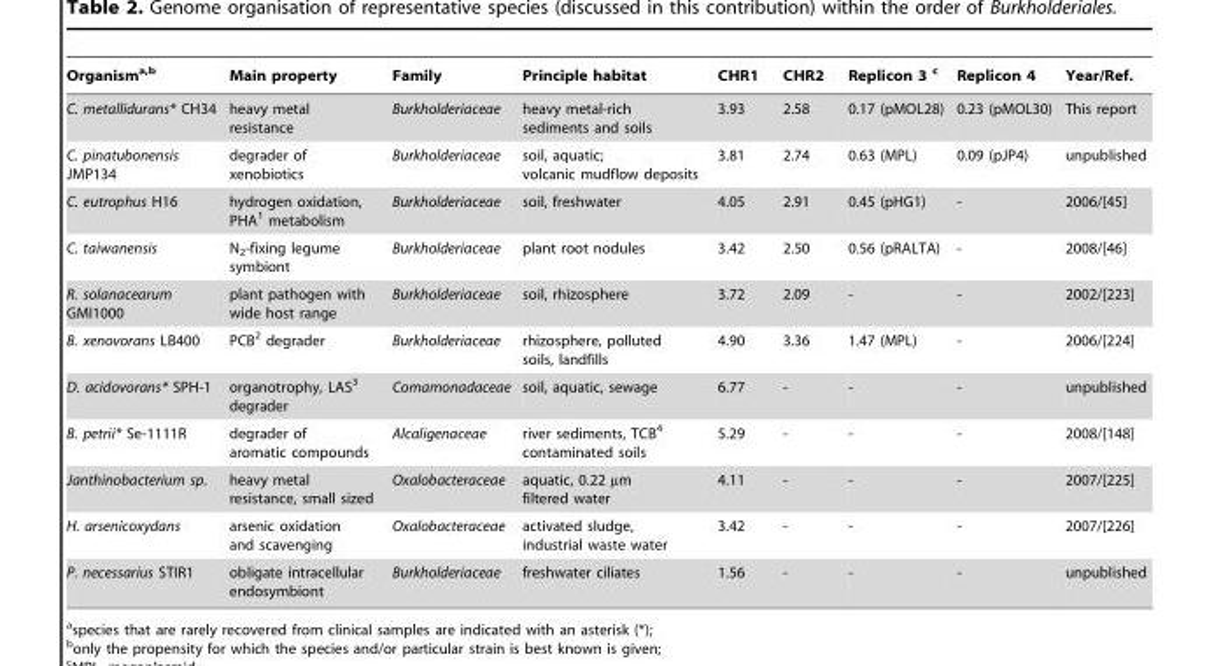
<table><thead><tr><td>Organisma,b</td><td>Main property</td><td>Family</td><td>Principle habitat</td><td>CHR1</td><td>CHR2</td><td>Replicon 3 c</td><td>Replicon 4</td><td>Year/Ref.</td></tr></thead><tbody><tr><td>C. metallidurans* CH34</td><td>heavy metal resistance</td><td>Burkholderiaceae</td><td>heavy metal-rich sediments and soils</td><td>3.93</td><td>2.58</td><td>0.17 (pMOL28)</td><td>0.23 (pMOL30)</td><td>This report</td></tr><tr><td>C. pinatubonensis JMP134</td><td>degrader of xenobiotics</td><td>Burkholderiaceae</td><td>soil, aquatic; volcanic mudflow deposits</td><td>3.81</td><td>2.74</td><td>0.63 (MPL)</td><td>0.09 (pJP4)</td><td>unpublished</td></tr><tr><td>C. eutrophus H16</td><td>hydrogen oxidation, PHA<sup>1</sup> metabolism</td><td>Burkholderiaceae</td><td>soil, freshwater</td><td>4.05</td><td>2.91</td><td>0.45 (pHG1)</td><td>-</td><td>2006/[45]</td></tr><tr><td>C. taiwanensis</td><td>N<sub>2</sub>-fixing legume symbiont</td><td>Burkholderiaceae</td><td>plant root nodules</td><td>3.42</td><td>2.50</td><td>0.56 (pRALTA)</td><td>-</td><td>2008/[46]</td></tr><tr><td>R. solanacearum GMI1000</td><td>plant pathogen with wide host range</td><td>Burkholderiaceae</td><td>soil, rhizosphere</td><td>3.72</td><td>2.09</td><td>-</td><td>-</td><td>2002/[223]</td></tr><tr><td>B. xenovorans LB400</td><td>PCB<sup>2</sup> degrader</td><td>Burkholderiaceae</td><td>rhizosphere, polluted soils, landfills</td><td>4.90</td><td>3.36</td><td>1.47 (MPL)</td><td>-</td><td>2006/[224]</td></tr><tr><td>D. acidovorans* SPH-1</td><td>organotrophy, LAS<sup>3</sup> degrader</td><td>Comamonadaceae</td><td>soil, aquatic, sewage</td><td>6.77</td><td>-</td><td>-</td><td>-</td><td>unpublished</td></tr><tr><td>B. petrii* Se-1111R</td><td>degrader of aromatic compounds</td><td>Alcaligenaceae</td><td>river sediments, TCB<sup>4</sup> contaminated soils</td><td>5.29</td><td>-</td><td>-</td><td>-</td><td>2008/[148]</td></tr><tr><td>Janthinobacterium sp.</td><td>heavy metal resistance, small sized</td><td>Oxalobacteraceae</td><td>aquatic, 0.22 µm filtered water</td><td>4.11</td><td>-</td><td>-</td><td>-</td><td>2007/[225]</td></tr><tr><td>H. arsenicoxydans</td><td>arsenic oxidation and scavenging</td><td>Oxalobacteraceae</td><td>activated sludge, industrial waste water</td><td>3.42</td><td>-</td><td>-</td><td>-</td><td>2007/[226]</td></tr><tr><td>P. necessarius STIR1</td><td>obligate intracellular endosymbiont</td><td>Burkholderiaceae</td><td>freshwater ciliates</td><td>1.56</td><td>-</td><td>-</td><td>-</td><td>unpublished</td></tr></tbody></table>